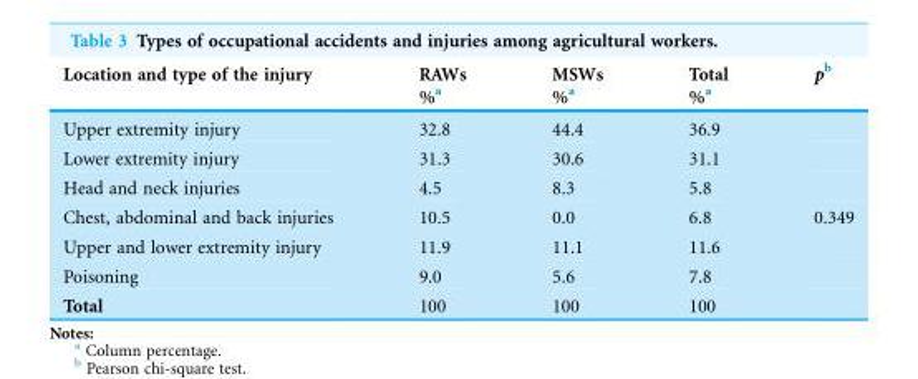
<table><thead><tr><td rowspan="2">Location and type of the injury</td><td rowspan="2">RAWs %<sup>a</sup></td><td rowspan="2">MSWs %<sup>a</sup></td><td rowspan="2">Total %a</td><td rowspan="2">p<sup>b</sup></td></tr><tr></tr></thead><tbody><tr><td>Upper extremity injury</td><td>32.8</td><td>44.4</td><td>36.9</td><td></td></tr><tr><td>Lower extremity injury</td><td>31.3</td><td>30.6</td><td>31.1</td><td></td></tr><tr><td>Head and neck injuries</td><td>4.5</td><td>8.3</td><td>5.8</td><td></td></tr><tr><td>Chest, abdominal and back injuries</td><td>10.5</td><td>0.0</td><td>6.8</td><td>0.349</td></tr><tr><td>Upper and lower extremity injury</td><td>11.9</td><td>11.1</td><td>11.6</td><td></td></tr><tr><td>Poisoning</td><td>9.0</td><td>5.6</td><td>7.8</td><td></td></tr><tr><td>Total</td><td>100</td><td>100</td><td>100</td><td></td></tr></tbody></table>